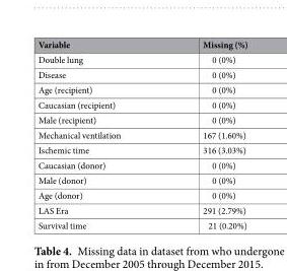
<table><thead><tr><td>Variable</td><td>Missing (%)</td></tr></thead><tbody><tr><td>Double lung</td><td>0 (0%)</td></tr><tr><td>Disease</td><td>0 (0%)</td></tr><tr><td>Age (recipient)</td><td>0 (0%)</td></tr><tr><td>Caucasian (recipient)</td><td>0 (0%)</td></tr><tr><td>Male (recipient)</td><td>0 (0%)</td></tr><tr><td>Mechanical ventilation</td><td>167 (1.60%)</td></tr><tr><td>Ischemic time</td><td>316 (3.03%)</td></tr><tr><td>Caucasian (donor)</td><td>0 (0%)</td></tr><tr><td>Male (donor)</td><td>0 (0%)</td></tr><tr><td>Age (donor)</td><td>0 (0%)</td></tr><tr><td>LAS Era</td><td>291 (2.79%)</td></tr><tr><td>Survival time</td><td>21 (0.20%)</td></tr></tbody></table>